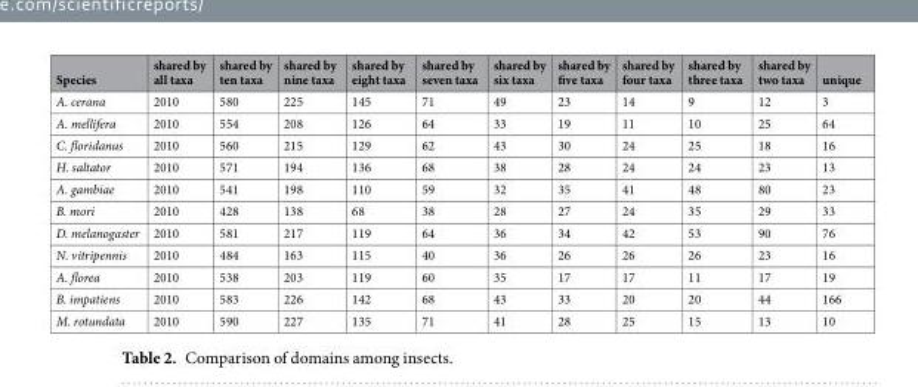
<table><thead><tr><td>Species</td><td>shared by all taxa</td><td>shared by ten taxa</td><td>shared by nine taxa</td><td>shared by eight taxa</td><td>shared by seven taxa</td><td>shared by six taxa</td><td>shared by five taxa</td><td>shared by four taxa</td><td>shared by three taxa</td><td>shared by two taxa</td><td>unique</td></tr></thead><tbody><tr><td>A. cerana</td><td>2010</td><td>580</td><td>225</td><td>145</td><td>71</td><td>49</td><td>23</td><td>14</td><td>9</td><td>12</td><td>3</td></tr><tr><td>A. mellifera</td><td>2010</td><td>554</td><td>208</td><td>126</td><td>64</td><td>33</td><td>19</td><td>11</td><td>10</td><td>25</td><td>64</td></tr><tr><td>C. floridanus</td><td>2010</td><td>560</td><td>215</td><td>129</td><td>62</td><td>43</td><td>30</td><td>24</td><td>25</td><td>18</td><td>16</td></tr><tr><td>H. saltator</td><td>2010</td><td>571</td><td>194</td><td>136</td><td>68</td><td>38</td><td>28</td><td>24</td><td>24</td><td>23</td><td>13</td></tr><tr><td>A. gambiae</td><td>2010</td><td>541</td><td>198</td><td>110</td><td>59</td><td>32</td><td>35</td><td>41</td><td>48</td><td>80</td><td>23</td></tr><tr><td>B. mori</td><td>2010</td><td>428</td><td>138</td><td>68</td><td>38</td><td>28</td><td>27</td><td>24</td><td>35</td><td>29</td><td>33</td></tr><tr><td>D. melanogaster</td><td>2010</td><td>581</td><td>217</td><td>119</td><td>64</td><td>36</td><td>34</td><td>42</td><td>53</td><td>90</td><td>76</td></tr><tr><td>N. vitripennis</td><td>2010</td><td>484</td><td>163</td><td>115</td><td>40</td><td>36</td><td>26</td><td>26</td><td>26</td><td>23</td><td>16</td></tr><tr><td>A. florea</td><td>2010</td><td>538</td><td>203</td><td>119</td><td>60</td><td>35</td><td>17</td><td>17</td><td>11</td><td>17</td><td>19</td></tr><tr><td>B. impatiens</td><td>2010</td><td>583</td><td>226</td><td>142</td><td>68</td><td>43</td><td>33</td><td>20</td><td>20</td><td>44</td><td>166</td></tr><tr><td>M. rotundata</td><td>2010</td><td>590</td><td>227</td><td>135</td><td>71</td><td>41</td><td>28</td><td>25</td><td>15</td><td>13</td><td>10</td></tr></tbody></table>